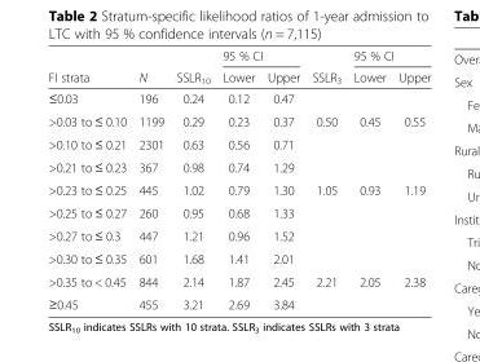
<table><thead><tr><td rowspan="2">FI strata</td><td rowspan="2">N</td><td rowspan="2">SSLR<sub>10</sub></td><td colspan="2">95 % CI</td><td rowspan="2">SSLR<sub>3</sub></td><td colspan="2">95 % CI</td></tr><tr><td>Lower</td><td>Upper</td><td>Lower</td><td>Upper</td></tr></thead><tbody><tr><td>≤0.03</td><td>196</td><td>0.24</td><td>0.12</td><td>0.47</td><td></td><td></td><td></td></tr><tr><td>&gt;0.03 to ≤ 0.10</td><td>1199</td><td>0.29</td><td>0.23</td><td>0.37</td><td>0.50</td><td>0.45</td><td>0.55</td></tr><tr><td>&gt;0.10 to ≤ 0.21</td><td>2301</td><td>0.63</td><td>0.56</td><td>0.71</td><td></td><td></td><td></td></tr><tr><td>&gt;0.21 to ≤ 0.23</td><td>367</td><td>0.98</td><td>0.74</td><td>1.29</td><td></td><td></td><td></td></tr><tr><td>&gt;0.23 to ≤ 0.25</td><td>445</td><td>1.02</td><td>0.79</td><td>1.30</td><td>1.05</td><td>0.93</td><td>1.19</td></tr><tr><td>&gt;0.25 to ≤ 0.27</td><td>260</td><td>0.95</td><td>0.68</td><td>1.33</td><td></td><td></td><td></td></tr><tr><td>&gt;0.27 to ≤ 0.3</td><td>447</td><td>1.21</td><td>0.96</td><td>1.52</td><td></td><td></td><td></td></tr><tr><td>&gt;0.30 to ≤ 0.35</td><td>601</td><td>1.68</td><td>1.41</td><td>2.01</td><td></td><td></td><td></td></tr><tr><td>&gt;0.35 to &lt; 0.45</td><td>844</td><td>2.14</td><td>1.87</td><td>2.45</td><td>2.21</td><td>2.05</td><td>2.38</td></tr><tr><td>≥0.45</td><td>455</td><td>3.21</td><td>2.69</td><td>3.84</td><td></td><td></td><td></td></tr></tbody></table>